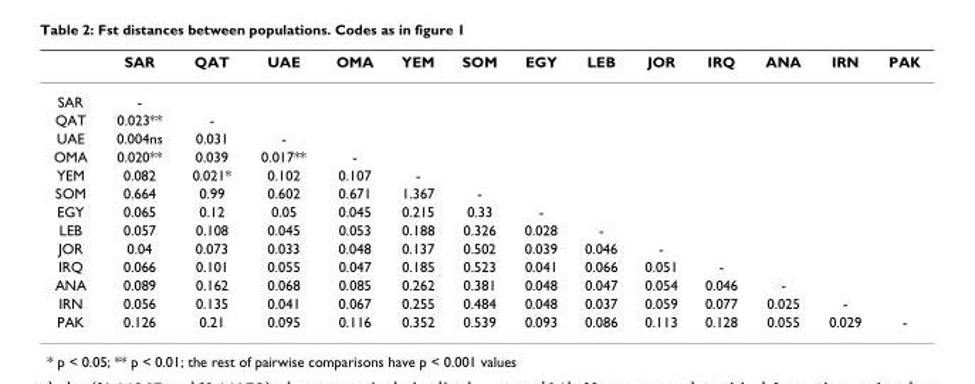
<table><thead><tr><td></td><td>SAR</td><td>QAT</td><td>UAE</td><td>OMA</td><td>YEM</td><td>SOM</td><td>EGY</td><td>LEB</td><td>JOR</td><td>IRQ</td><td>ANA</td><td>IRN</td><td>PAK</td></tr></thead><tbody><tr><td>SAR</td><td>-</td><td></td><td></td><td></td><td></td><td></td><td></td><td></td><td></td><td></td><td></td><td></td><td></td></tr><tr><td>QAT</td><td>0.023**</td><td>-</td><td></td><td></td><td></td><td></td><td></td><td></td><td></td><td></td><td></td><td></td><td></td></tr><tr><td>UAE</td><td>0.004ns</td><td>0.031</td><td>-</td><td></td><td></td><td></td><td></td><td></td><td></td><td></td><td></td><td></td><td></td></tr><tr><td>OMA</td><td>0.020**</td><td>0.039</td><td>0.017**</td><td>-</td><td></td><td></td><td></td><td></td><td></td><td></td><td></td><td></td><td></td></tr><tr><td>YEM</td><td>0.082</td><td>0.021*</td><td>0.102</td><td>0.107</td><td>-</td><td></td><td></td><td></td><td></td><td></td><td></td><td></td><td></td></tr><tr><td>SOM</td><td>0.664</td><td>0.99</td><td>0.602</td><td>0.671</td><td>1.367</td><td>-</td><td></td><td></td><td></td><td></td><td></td><td></td><td></td></tr><tr><td>EGY</td><td>0.065</td><td>0.12</td><td>0.05</td><td>0.045</td><td>0.215</td><td>0.33</td><td>-</td><td></td><td></td><td></td><td></td><td></td><td></td></tr><tr><td>LEB</td><td>0.057</td><td>0.108</td><td>0.045</td><td>0.053</td><td>0.188</td><td>0.326</td><td>0.028</td><td>-</td><td></td><td></td><td></td><td></td><td></td></tr><tr><td>JOR</td><td>0.04</td><td>0.073</td><td>0.033</td><td>0.048</td><td>0.137</td><td>0.502</td><td>0.039</td><td>0.046</td><td>-</td><td></td><td></td><td></td><td></td></tr><tr><td>IRQ</td><td>0.066</td><td>0.101</td><td>0.055</td><td>0.047</td><td>0.185</td><td>0.523</td><td>0.041</td><td>0.066</td><td>0.051</td><td>-</td><td></td><td></td><td></td></tr><tr><td>ANA</td><td>0.089</td><td>0.162</td><td>0.068</td><td>0.085</td><td>0.262</td><td>0.381</td><td>0.048</td><td>0.047</td><td>0.054</td><td>0.046</td><td>-</td><td></td><td></td></tr><tr><td>IRN</td><td>0.056</td><td>0.135</td><td>0.041</td><td>0.067</td><td>0.255</td><td>0.484</td><td>0.048</td><td>0.037</td><td>0.059</td><td>0.077</td><td>0.025</td><td>-</td><td></td></tr><tr><td>PAK</td><td>0.126</td><td>0.21</td><td>0.095</td><td>0.116</td><td>0.352</td><td>0.539</td><td>0.093</td><td>0.086</td><td>0.113</td><td>0.128</td><td>0.055</td><td>0.029</td><td>-</td></tr></tbody></table>